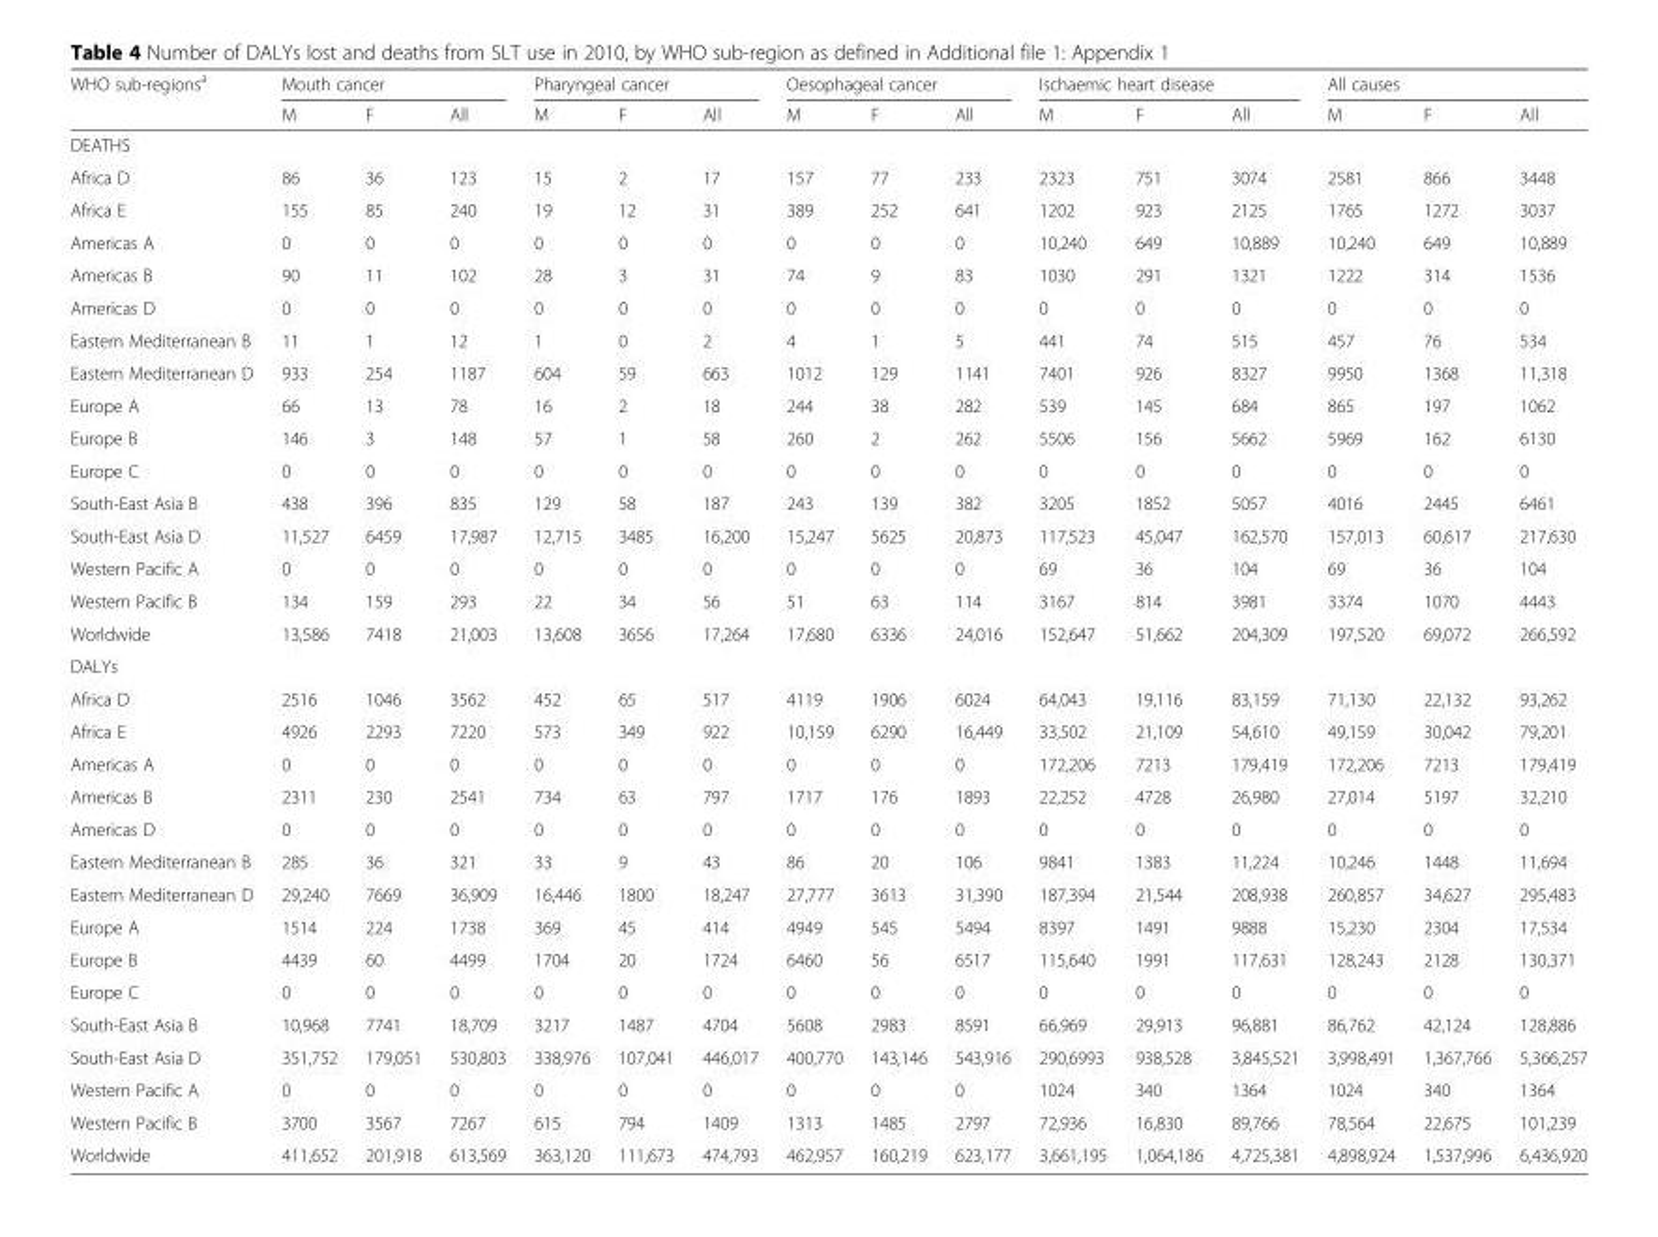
<table><thead><tr><td rowspan="2">WHO sub-regions<sup>a</sup></td><td colspan="3">Mouth cancer</td><td colspan="3">Pharyngeal cancer</td><td colspan="3">Oesophageal cancer</td><td colspan="3">Ischaemic heart disease</td><td colspan="3">All causes</td></tr><tr><td>M</td><td>F</td><td>All</td><td>M</td><td>F</td><td>All</td><td>M</td><td>F</td><td>All</td><td>M</td><td>F</td><td>All</td><td>M</td><td>F</td><td>All</td></tr></thead><tbody><tr><td colspan="16">DEATHS</td></tr><tr><td>Africa D</td><td>86</td><td>36</td><td>123</td><td>15</td><td>2</td><td>17</td><td>157</td><td>77</td><td>233</td><td>2323</td><td>751</td><td>3074</td><td>2581</td><td>866</td><td>3448</td></tr><tr><td>Africa E</td><td>155</td><td>85</td><td>240</td><td>19</td><td>12</td><td>31</td><td>389</td><td>252</td><td>641</td><td>1202</td><td>923</td><td>2125</td><td>1765</td><td>1272</td><td>3037</td></tr><tr><td>Americas A</td><td>0</td><td>0</td><td>0</td><td>0</td><td>0</td><td>0</td><td>0</td><td>0</td><td>0</td><td>10,240</td><td>649</td><td>10,889</td><td>10,240</td><td>649</td><td>10,889</td></tr><tr><td>Americas B</td><td>90</td><td>11</td><td>102</td><td>28</td><td>3</td><td>31</td><td>74</td><td>9</td><td>83</td><td>1030</td><td>291</td><td>1321</td><td>1222</td><td>314</td><td>1536</td></tr><tr><td>Americas D</td><td>0</td><td>0</td><td>0</td><td>0</td><td>0</td><td>0</td><td>0</td><td>0</td><td>0</td><td>0</td><td>0</td><td>0</td><td>0</td><td>0</td><td>0</td></tr><tr><td>Eastern Mediterranean B</td><td>11</td><td>1</td><td>12</td><td>1</td><td>0</td><td>2</td><td>4</td><td>1</td><td>5</td><td>441</td><td>74</td><td>515</td><td>457</td><td>76</td><td>534</td></tr><tr><td>Eastern Mediterranean D</td><td>933</td><td>254</td><td>1187</td><td>604</td><td>59</td><td>663</td><td>1012</td><td>129</td><td>1141</td><td>7401</td><td>926</td><td>8327</td><td>9950</td><td>1368</td><td>11,318</td></tr><tr><td>Europe A</td><td>66</td><td>13</td><td>78</td><td>16</td><td>2</td><td>18</td><td>244</td><td>38</td><td>282</td><td>539</td><td>145</td><td>684</td><td>865</td><td>197</td><td>1062</td></tr><tr><td>Europe B</td><td>146</td><td>3</td><td>148</td><td>57</td><td>1</td><td>58</td><td>260</td><td>2</td><td>262</td><td>5506</td><td>156</td><td>5662</td><td>5969</td><td>162</td><td>6130</td></tr><tr><td>Europe C</td><td>0</td><td>0</td><td>0</td><td>0</td><td>0</td><td>0</td><td>0</td><td>0</td><td>0</td><td>0</td><td>0</td><td>0</td><td>0</td><td>0</td><td>0</td></tr><tr><td>South-East Asia B</td><td>438</td><td>396</td><td>835</td><td>129</td><td>58</td><td>187</td><td>243</td><td>139</td><td>382</td><td>3205</td><td>1852</td><td>5057</td><td>4016</td><td>2445</td><td>6461</td></tr><tr><td>South-East Asia D</td><td>11,527</td><td>6459</td><td>17,987</td><td>12,715</td><td>3485</td><td>16,200</td><td>15,247</td><td>5625</td><td>20,873</td><td>117,523</td><td>45,047</td><td>162,570</td><td>157,013</td><td>60,617</td><td>217,630</td></tr><tr><td>Western Pacific A</td><td>0</td><td>0</td><td>0</td><td>0</td><td>0</td><td>0</td><td>0</td><td>0</td><td>0</td><td>69</td><td>36</td><td>104</td><td>69</td><td>36</td><td>104</td></tr><tr><td>Western Pacific B</td><td>134</td><td>159</td><td>293</td><td>22</td><td>34</td><td>56</td><td>51</td><td>63</td><td>114</td><td>3167</td><td>814</td><td>3981</td><td>3374</td><td>1070</td><td>4443</td></tr><tr><td>Worldwide</td><td>13,586</td><td>7418</td><td>21,003</td><td>13,608</td><td>3656</td><td>17,264</td><td>17,680</td><td>6336</td><td>24,016</td><td>152,647</td><td>51,662</td><td>204,309</td><td>197,520</td><td>69,072</td><td>266,592</td></tr><tr><td colspan="16">DALYs</td></tr><tr><td>Africa D</td><td>2516</td><td>1046</td><td>3562</td><td>452</td><td>65</td><td>517</td><td>4119</td><td>1906</td><td>6024</td><td>64,043</td><td>19,116</td><td>83,159</td><td>71,130</td><td>22,132</td><td>93,262</td></tr><tr><td>Africa E</td><td>4926</td><td>2293</td><td>7220</td><td>573</td><td>349</td><td>922</td><td>10,159</td><td>6290</td><td>16,449</td><td>33,502</td><td>21,109</td><td>54,610</td><td>49,159</td><td>30,042</td><td>79,201</td></tr><tr><td>Americas A</td><td>0</td><td>0</td><td>0</td><td>0</td><td>0</td><td>0</td><td>0</td><td>0</td><td>0</td><td>172,206</td><td>7213</td><td>179,419</td><td>172,206</td><td>7213</td><td>179,419</td></tr><tr><td>Americas B</td><td>2311</td><td>230</td><td>2541</td><td>734</td><td>63</td><td>797</td><td>1717</td><td>176</td><td>1893</td><td>22,252</td><td>4728</td><td>26,980</td><td>27,014</td><td>5197</td><td>32,210</td></tr><tr><td>Americas D</td><td>0</td><td>0</td><td>0</td><td>0</td><td>0</td><td>0</td><td>0</td><td>0</td><td>0</td><td>0</td><td>0</td><td>0</td><td>0</td><td>0</td><td>0</td></tr><tr><td>Eastern Mediterranean B</td><td>285</td><td>36</td><td>321</td><td>33</td><td>9</td><td>43</td><td>86</td><td>20</td><td>106</td><td>9841</td><td>1383</td><td>11,224</td><td>10,246</td><td>1448</td><td>11,694</td></tr><tr><td>Eastern Mediterranean D</td><td>29,240</td><td>7669</td><td>36,909</td><td>16,446</td><td>1800</td><td>18,247</td><td>27,777</td><td>3613</td><td>31,390</td><td>187,394</td><td>21,544</td><td>208,938</td><td>260,857</td><td>34,627</td><td>295,483</td></tr><tr><td>Europe A</td><td>1514</td><td>224</td><td>1738</td><td>369</td><td>45</td><td>414</td><td>4949</td><td>545</td><td>5494</td><td>8397</td><td>1491</td><td>9888</td><td>15,230</td><td>2304</td><td>17,534</td></tr><tr><td>Europe B</td><td>4439</td><td>60</td><td>4499</td><td>1704</td><td>20</td><td>1724</td><td>6460</td><td>56</td><td>6517</td><td>115,640</td><td>1991</td><td>117,631</td><td>128,243</td><td>2128</td><td>130,371</td></tr><tr><td>Europe C</td><td>0</td><td>0</td><td>0</td><td>0</td><td>0</td><td>0</td><td>0</td><td>0</td><td>0</td><td>0</td><td>0</td><td>0</td><td>0</td><td>0</td><td>0</td></tr><tr><td>South-East Asia B</td><td>10,968</td><td>7741</td><td>18,709</td><td>3217</td><td>1487</td><td>4704</td><td>5608</td><td>2983</td><td>8591</td><td>66,969</td><td>29,913</td><td>96,881</td><td>86,762</td><td>42,124</td><td>128,886</td></tr><tr><td>South-East Asia D</td><td>351,752</td><td>179,051</td><td>530,803</td><td>338,976</td><td>107,041</td><td>446,017</td><td>400,770</td><td>143,146</td><td>543,916</td><td>290,6993</td><td>938,528</td><td>3,845,521</td><td>3,998,491</td><td>1,367,766</td><td>5,366,257</td></tr><tr><td>Western Pacific A</td><td>0</td><td>0</td><td>0</td><td>0</td><td>0</td><td>0</td><td>0</td><td>0</td><td>0</td><td>1024</td><td>340</td><td>1364</td><td>1024</td><td>340</td><td>1364</td></tr><tr><td>Western Pacific B</td><td>3700</td><td>3567</td><td>7267</td><td>615</td><td>794</td><td>1409</td><td>1313</td><td>1485</td><td>2797</td><td>72,936</td><td>16,830</td><td>89,766</td><td>78,564</td><td>22,675</td><td>101,239</td></tr><tr><td>Worldwide</td><td>411,652</td><td>201,918</td><td>613,569</td><td>363,120</td><td>111,673</td><td>474,793</td><td>462,957</td><td>160,219</td><td>623,177</td><td>3,661,195</td><td>1,064,186</td><td>4,725,381</td><td>4,898,924</td><td>1,537,996</td><td>6,436,920</td></tr></tbody></table>